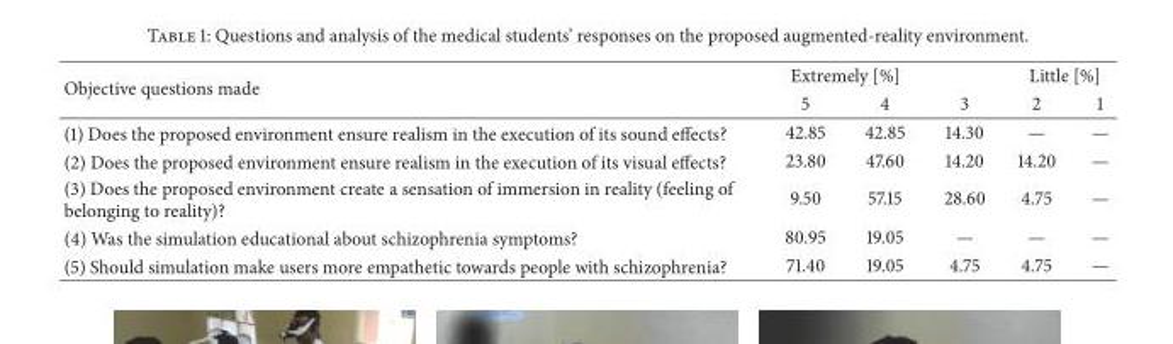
<table><thead><tr><td rowspan="2">Objective questions made</td><td colspan="2">Extremely [%]</td><td rowspan="2">3</td><td colspan="2">Little [%]</td></tr><tr><td>5</td><td>4</td><td>2</td><td>1</td></tr></thead><tbody><tr><td>(1) Does the proposed environment ensure realism in the execution of its sound effects?</td><td>42.85</td><td>42.85</td><td>14.30</td><td>—</td><td>—</td></tr><tr><td>(2) Does the proposed environment ensure realism in the execution of its visual effects?</td><td>23.80</td><td>47.60</td><td>14.20</td><td>14.20</td><td>—</td></tr><tr><td>(3) Does the proposed environment create a sensation of immersion in reality (feeling of belonging to reality)?</td><td>9.50</td><td>57.15</td><td>28.60</td><td>4.75</td><td>—</td></tr><tr><td>(4) Was the simulation educational about schizophrenia symptoms?</td><td>80.95</td><td>19.05</td><td>—</td><td>—</td><td>—</td></tr><tr><td>(5) Should simulation make users more empathetic towards people with schizophrenia?</td><td>71.40</td><td>19.05</td><td>4.75</td><td>4.75</td><td>—</td></tr></tbody></table>